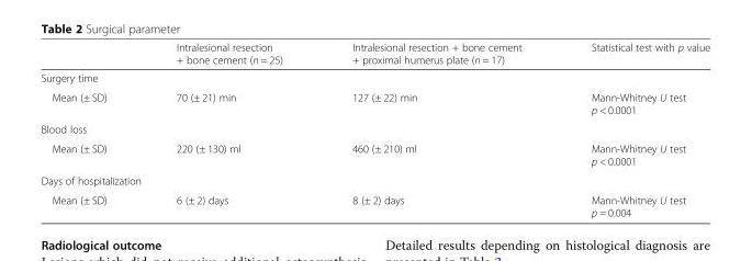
<table><thead><tr><td></td><td>Intralesional resection + bone cement (n = 25)</td><td>Intralesional resection + bone cement + proximal humerus plate (n = 17)</td><td>Statistical test with p value</td></tr></thead><tbody><tr><td colspan="4">Surgery time</td></tr><tr><td>Mean (± SD)</td><td>70 (± 21) min</td><td>127 (± 22) min</td><td>Mann-Whitney U test p &lt; 0.0001</td></tr><tr><td colspan="4">Blood loss</td></tr><tr><td>Mean (± SD)</td><td>220 (± 130) ml</td><td>460 (± 210) ml</td><td>Mann-Whitney U test p &lt; 0.0001</td></tr><tr><td colspan="4">Days of hospitalization</td></tr><tr><td>Mean (± SD)</td><td>6 (± 2) days</td><td>8 (± 2) days</td><td>Mann-Whitney U test p = 0.004</td></tr></tbody></table>